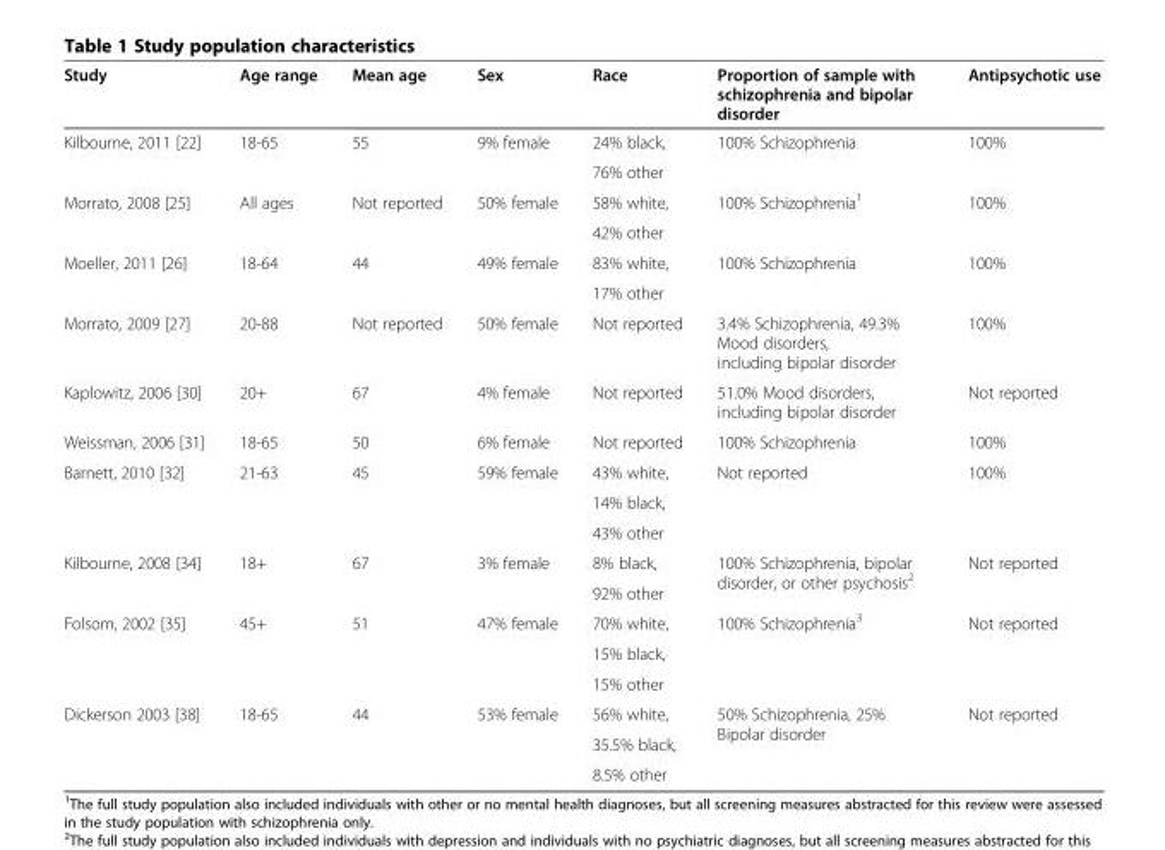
<table><thead><tr><td>Study</td><td>Age range</td><td>Mean age</td><td>Sex</td><td>Race</td><td>Proportion of sample with schizophrenia and bipolar disorder</td><td>Antipsychotic use</td></tr></thead><tbody><tr><td rowspan="2">Kilbourne, 2011 [22]</td><td rowspan="2">18-65</td><td rowspan="2">55</td><td rowspan="2">9% female</td><td>24% black,</td><td rowspan="2">100% Schizophrenia</td><td rowspan="2">100%</td></tr><tr><td>76% other</td></tr><tr><td rowspan="2">Morrato, 2008 [25]</td><td rowspan="2">All ages</td><td rowspan="2">Not reported</td><td rowspan="2">50% female</td><td>58% white,</td><td rowspan="2">100% Schizophrenia<sup>1</sup></td><td rowspan="2">100%</td></tr><tr><td>42% other</td></tr><tr><td rowspan="2">Moeller, 2011 [26]</td><td rowspan="2">18-64</td><td rowspan="2">44</td><td rowspan="2">49% female</td><td>83% white,</td><td rowspan="2">100% Schizophrenia</td><td rowspan="2">100%</td></tr><tr><td>17% other</td></tr><tr><td>Morrato, 2009 [27]</td><td>20-88</td><td>Not reported</td><td>50% female</td><td>Not reported</td><td>3.4% Schizophrenia, 49.3% Mood disorders, including bipolar disorder</td><td>100%</td></tr><tr><td>Kaplowitz, 2006 [30]</td><td>20+</td><td>67</td><td>4% female</td><td>Not reported</td><td>51.0% Mood disorders, including bipolar disorder</td><td>Not reported</td></tr><tr><td>Weissman, 2006 [31]</td><td>18-65</td><td>50</td><td>6% female</td><td>Not reported</td><td>100% Schizophrenia</td><td>100%</td></tr><tr><td rowspan="3">Barnett, 2010 [32]</td><td rowspan="3">21-63</td><td rowspan="3">45</td><td rowspan="3">59% female</td><td>43% white,</td><td rowspan="3">Not reported</td><td rowspan="3">100%</td></tr><tr><td>14% black,</td></tr><tr><td>43% other</td></tr><tr><td rowspan="2">Kilbourne, 2008 [34]</td><td rowspan="2">18+</td><td rowspan="2">67</td><td rowspan="2">3% female</td><td>8% black,</td><td rowspan="2">100% Schizophrenia, bipolar disorder, or other psychosis<sup>2</sup></td><td rowspan="2">Not reported</td></tr><tr><td>92% other</td></tr><tr><td rowspan="3">Folsom, 2002 [35]</td><td rowspan="3">45+</td><td rowspan="3">51</td><td rowspan="3">47% female</td><td>70% white,</td><td rowspan="3">100% Schizophrenia<sup>3</sup></td><td rowspan="3">Not reported</td></tr><tr><td>15% black,</td></tr><tr><td>15% other</td></tr><tr><td rowspan="3">Dickerson 2003 [38]</td><td rowspan="3">18-65</td><td rowspan="3">44</td><td rowspan="3">53% female</td><td>56% white,</td><td rowspan="3">50% Schizophrenia, 25% Bipolar disorder</td><td rowspan="3">Not reported</td></tr><tr><td>35.5% black,</td></tr><tr><td>8.5% other</td></tr></tbody></table>